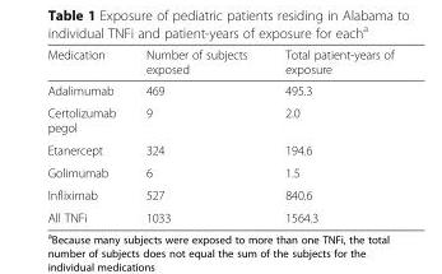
<table><thead><tr><td>Medication</td><td>Number of subjects exposed</td><td>Total patient-years of exposure</td></tr></thead><tbody><tr><td>Adalimumab</td><td>469</td><td>495.3</td></tr><tr><td>Certolizumab pegol</td><td>9</td><td>2.0</td></tr><tr><td>Etanercept</td><td>324</td><td>194.6</td></tr><tr><td>Golimumab</td><td>6</td><td>1.5</td></tr><tr><td>Infliximab</td><td>527</td><td>840.6</td></tr><tr><td>All TNFi</td><td>1033</td><td>1564.3</td></tr></tbody></table>